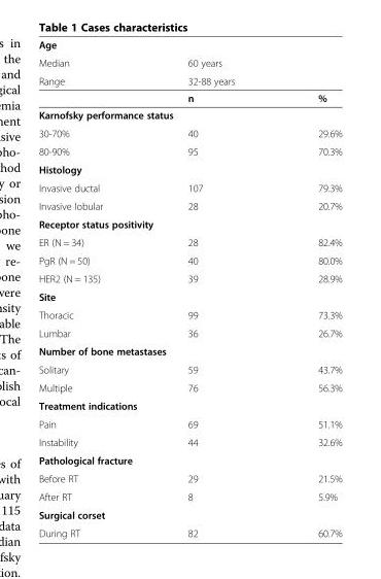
<table><tbody><tr><td colspan="3">Age</td></tr><tr><td>Median</td><td>60 years</td><td></td></tr><tr><td rowspan="2">Range</td><td>32-88 years</td><td></td></tr><tr><td>n</td><td>%</td></tr><tr><td colspan="3">Karnofsky performance status</td></tr><tr><td>30-70%</td><td>40</td><td>29.6%</td></tr><tr><td>80-90%</td><td>95</td><td>70.3%</td></tr><tr><td colspan="3">Histology</td></tr><tr><td>Invasive ductal</td><td>107</td><td>79.3%</td></tr><tr><td>Invasive lobular</td><td>28</td><td>20.7%</td></tr><tr><td colspan="3">Receptor status positivity</td></tr><tr><td>ER (N = 34)</td><td>28</td><td>82.4%</td></tr><tr><td>PgR (N = 50)</td><td>40</td><td>80.0%</td></tr><tr><td>HER2 (N = 135)</td><td>39</td><td>28.9%</td></tr><tr><td colspan="3">Site</td></tr><tr><td>Thoracic</td><td>99</td><td>73.3%</td></tr><tr><td>Lumbar</td><td>36</td><td>26.7%</td></tr><tr><td colspan="3">Number of bone metastases</td></tr><tr><td>Solitary</td><td>59</td><td>43.7%</td></tr><tr><td>Multiple</td><td>76</td><td>56.3%</td></tr><tr><td colspan="3">Treatment indications</td></tr><tr><td>Pain</td><td>69</td><td>51.1%</td></tr><tr><td>Instability</td><td>44</td><td>32.6%</td></tr><tr><td colspan="3">Pathological fracture</td></tr><tr><td>Before RT</td><td>29</td><td>21.5%</td></tr><tr><td>After RT</td><td>8</td><td>5.9%</td></tr><tr><td colspan="3">Surgical corset</td></tr><tr><td>During RT</td><td>82</td><td>60.7%</td></tr></tbody></table>